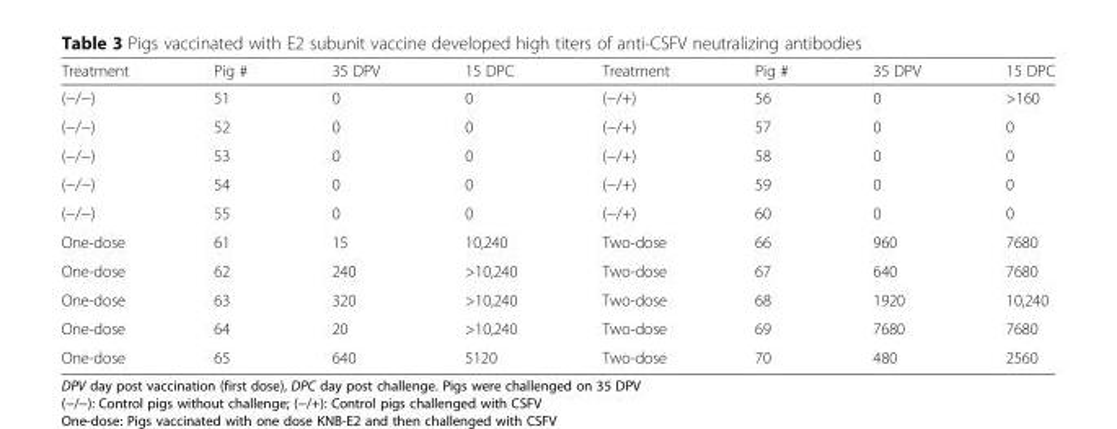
<table><thead><tr><td>Treatment</td><td>Pig #</td><td>35 DPV</td><td>15 DPC</td><td>Treatment</td><td>Pig #</td><td>35 DPV</td><td>15 DPC</td></tr></thead><tbody><tr><td>(−/−)</td><td>51</td><td>0</td><td>0</td><td>(−/+)</td><td>56</td><td>0</td><td>&gt;160</td></tr><tr><td>(−/−)</td><td>52</td><td>0</td><td>0</td><td>(−/+)</td><td>57</td><td>0</td><td>0</td></tr><tr><td>(−/−)</td><td>53</td><td>0</td><td>0</td><td>(−/+)</td><td>58</td><td>0</td><td>0</td></tr><tr><td>(−/−)</td><td>54</td><td>0</td><td>0</td><td>(−/+)</td><td>59</td><td>0</td><td>0</td></tr><tr><td>(−/−)</td><td>55</td><td>0</td><td>0</td><td>(−/+)</td><td>60</td><td>0</td><td>0</td></tr><tr><td>One-dose</td><td>61</td><td>15</td><td>10,240</td><td>Two-dose</td><td>66</td><td>960</td><td>7680</td></tr><tr><td>One-dose</td><td>62</td><td>240</td><td>&gt;10,240</td><td>Two-dose</td><td>67</td><td>640</td><td>7680</td></tr><tr><td>One-dose</td><td>63</td><td>320</td><td>&gt;10,240</td><td>Two-dose</td><td>68</td><td>1920</td><td>10,240</td></tr><tr><td>One-dose</td><td>64</td><td>20</td><td>&gt;10,240</td><td>Two-dose</td><td>69</td><td>7680</td><td>7680</td></tr><tr><td>One-dose</td><td>65</td><td>640</td><td>5120</td><td>Two-dose</td><td>70</td><td>480</td><td>2560</td></tr></tbody></table>